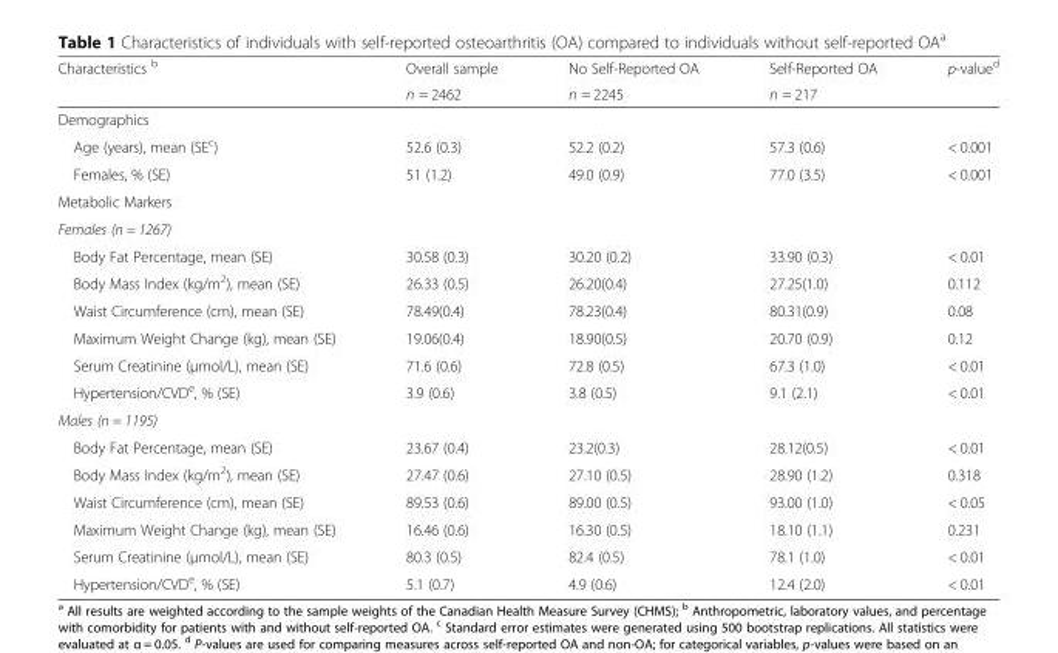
<table><thead><tr><td rowspan="2">Characteristics <sup>b</sup></td><td rowspan="2">Overall sample n = 2462</td><td rowspan="2">No Self-Reported OA n = 2245</td><td rowspan="2">Self-Reported OA n = 217</td><td rowspan="2">p-value<sup>d</sup></td></tr><tr></tr></thead><tbody><tr><td colspan="5">Demographics</td></tr><tr><td>Age (years), mean (SE<sup>c</sup>)</td><td>52.6 (0.3)</td><td>52.2 (0.2)</td><td>57.3 (0.6)</td><td>&lt; 0.001</td></tr><tr><td>Females, % (SE)</td><td>51 (1.2)</td><td>49.0 (0.9)</td><td>77.0 (3.5)</td><td>&lt; 0.001</td></tr><tr><td colspan="5">Metabolic Markers</td></tr><tr><td colspan="5">Females (n = 1267)</td></tr><tr><td>Body Fat Percentage, mean (SE)</td><td>30.58 (0.3)</td><td>30.20 (0.2)</td><td>33.90 (0.3)</td><td>&lt; 0.01</td></tr><tr><td>Body Mass Index (kg/m<sup>2</sup>), mean (SE)</td><td>26.33 (0.5)</td><td>26.20(0.4)</td><td>27.25(1.0)</td><td>0.112</td></tr><tr><td>Waist Circumference (cm), mean (SE)</td><td>78.49(0.4)</td><td>78.23(0.4)</td><td>80.31(0.9)</td><td>0.08</td></tr><tr><td>Maximum Weight Change (kg), mean (SE)</td><td>19.06(0.4)</td><td>18.90(0.5)</td><td>20.70 (0.9)</td><td>0.12</td></tr><tr><td>Serum Creatinine (μmol/L), mean (SE)</td><td>71.6 (0.6)</td><td>72.8 (0.5)</td><td>67.3 (1.0)</td><td>&lt; 0.01</td></tr><tr><td>Hypertension/CVD<sup>e</sup>, % (SE)</td><td>3.9 (0.6)</td><td>3.8 (0.5)</td><td>9.1 (2.1)</td><td>&lt; 0.01</td></tr><tr><td colspan="5">Males (n = 1195)</td></tr><tr><td>Body Fat Percentage, mean (SE)</td><td>23.67 (0.4)</td><td>23.2(0.3)</td><td>28.12(0.5)</td><td>&lt; 0.01</td></tr><tr><td>Body Mass Index (kg/m<sup>2</sup>), mean (SE)</td><td>27.47 (0.6)</td><td>27.10 (0.5)</td><td>28.90 (1.2)</td><td>0.318</td></tr><tr><td>Waist Circumference (cm), mean (SE)</td><td>89.53 (0.6)</td><td>89.00 (0.5)</td><td>93.00 (1.0)</td><td>&lt; 0.05</td></tr><tr><td>Maximum Weight Change (kg), mean (SE)</td><td>16.46 (0.6)</td><td>16.30 (0.5)</td><td>18.10 (1.1)</td><td>0.231</td></tr><tr><td>Serum Creatinine (μmol/L), mean (SE)</td><td>80.3 (0.5)</td><td>82.4 (0.5)</td><td>78.1 (1.0)</td><td>&lt; 0.01</td></tr><tr><td>Hypertension/CVD<sup>e</sup>, % (SE)</td><td>5.1 (0.7)</td><td>4.9 (0.6)</td><td>12.4 (2.0)</td><td>&lt; 0.01</td></tr></tbody></table>